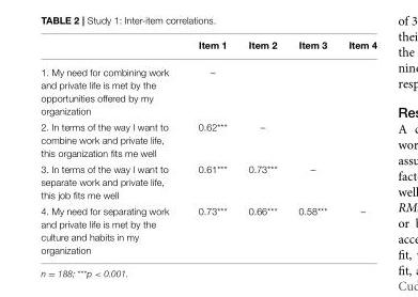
<table><thead><tr><td></td><td>Item 1</td><td>Item 2</td><td>Item 3</td><td>Item 4</td></tr></thead><tbody><tr><td>1. My need for combining work and private life is met by the opportunities offered by my organization</td><td>–</td><td></td><td></td><td></td></tr><tr><td>2. In terms of the way I want to combine work and private life, this organization fits me well</td><td>0.62***</td><td>–</td><td></td><td></td></tr><tr><td>3. In terms of the way I want to separate work and private life, this job fits me well</td><td>0.61***</td><td>0.73***</td><td>–</td><td></td></tr><tr><td>4. My need for separating work and private life is met by the culture and habits in my organization</td><td>0.73***</td><td>0.66***</td><td>0.58***</td><td>–</td></tr></tbody></table>